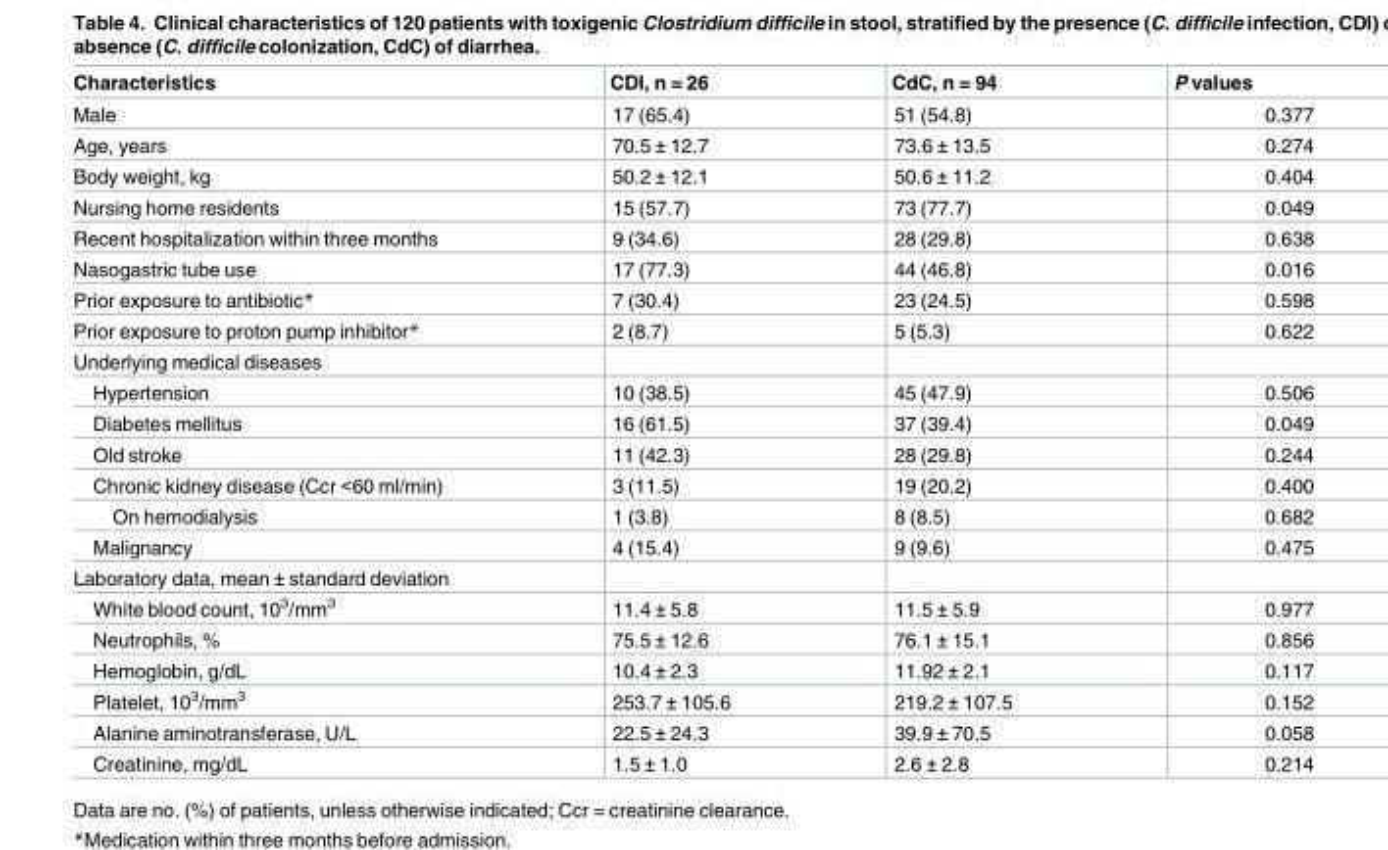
<table><thead><tr><td>Characteristics</td><td>CDI, n = 26</td><td>CdC, n = 94</td><td>P values</td></tr></thead><tbody><tr><td>Male</td><td>17 (65.4)</td><td>51 (54.8)</td><td>0.377</td></tr><tr><td>Age, years</td><td>70.5 ± 12.7</td><td>73.6 ± 13.5</td><td>0.274</td></tr><tr><td>Body weight, kg</td><td>50.2 ± 12.1</td><td>50.6 ± 11.2</td><td>0.404</td></tr><tr><td>Nursing home residents</td><td>15 (57.7)</td><td>73 (77.7)</td><td>0.049</td></tr><tr><td>Recent hospitalization within three months</td><td>9 (34.6)</td><td>28 (29.8)</td><td>0.638</td></tr><tr><td>Nasogastric tube use</td><td>17 (77.3)</td><td>44 (46.8)</td><td>0.016</td></tr><tr><td>Prior exposure to antibiotic*</td><td>7 (30.4)</td><td>23 (24.5)</td><td>0.598</td></tr><tr><td>Prior exposure to proton pump inhibitor*</td><td>2 (8.7)</td><td>5 (5.3)</td><td>0.622</td></tr><tr><td colspan="4">Underlying medical diseases</td></tr><tr><td>Hypertension</td><td>10 (38.5)</td><td>45 (47.9)</td><td>0.506</td></tr><tr><td>Diabetes mellitus</td><td>16 (61.5)</td><td>37 (39.4)</td><td>0.049</td></tr><tr><td>Old stroke</td><td>11 (42.3)</td><td>28 (29.8)</td><td>0.244</td></tr><tr><td>Chronic kidney disease (Ccr &lt;60 ml/min)</td><td>3 (11.5)</td><td>19 (20.2)</td><td>0.400</td></tr><tr><td>On hemodialysis</td><td>1 (3.8)</td><td>8 (8.5)</td><td>0.682</td></tr><tr><td>Malignancy</td><td>4 (15.4)</td><td>9 (9.6)</td><td>0.475</td></tr><tr><td colspan="4">Laboratory data, mean ± standard deviation</td></tr><tr><td>White blood count, 10<sup>3</sup>/mm<sup>3</sup></td><td>11.4 ± 5.8</td><td>11.5 ± 5.9</td><td>0.977</td></tr><tr><td>Neutrophils, %</td><td>75.5 ± 12.6</td><td>76.1 ± 15.1</td><td>0.856</td></tr><tr><td>Hemoglobin, g/dL</td><td>10.4 ± 2.3</td><td>11.92 ± 2.1</td><td>0.117</td></tr><tr><td>Platelet, 10<sup>3</sup>/mm<sup>3</sup></td><td>253.7 ± 105.6</td><td>219.2 ± 107.5</td><td>0.152</td></tr><tr><td>Alanine aminotransferase, U/L</td><td>22.5 ± 24.3</td><td>39.9 ± 70.5</td><td>0.058</td></tr><tr><td>Creatinine, mg/dL</td><td>1.5 ± 1.0</td><td>2.6 ± 2.8</td><td>0.214</td></tr></tbody></table>